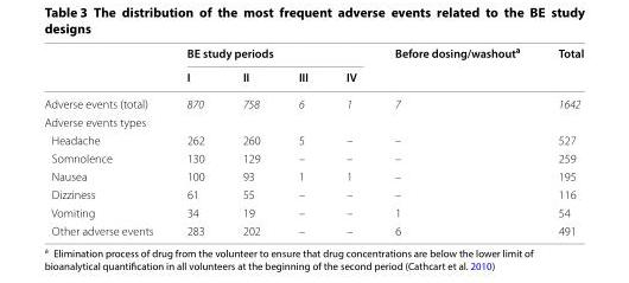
<table><thead><tr><td rowspan="2"></td><td colspan="4">BE study periods</td><td rowspan="2">Before dosing/washout<sup>a</sup></td><td rowspan="2">Total</td></tr><tr><td>I</td><td>II</td><td>III</td><td>IV</td></tr></thead><tbody><tr><td>Adverse events (total)</td><td>870</td><td>758</td><td>6</td><td>1</td><td>7</td><td>1642</td></tr><tr><td colspan="7">Adverse events types</td></tr><tr><td>Headache</td><td>262</td><td>260</td><td>5</td><td>–</td><td>–</td><td>527</td></tr><tr><td>Somnolence</td><td>130</td><td>129</td><td>–</td><td>–</td><td>–</td><td>259</td></tr><tr><td>Nausea</td><td>100</td><td>93</td><td>1</td><td>1</td><td>–</td><td>195</td></tr><tr><td>Dizziness</td><td>61</td><td>55</td><td>–</td><td>–</td><td>–</td><td>116</td></tr><tr><td>Vomiting</td><td>34</td><td>19</td><td>–</td><td>–</td><td>1</td><td>54</td></tr><tr><td>Other adverse events</td><td>283</td><td>202</td><td>–</td><td>–</td><td>6</td><td>491</td></tr></tbody></table>